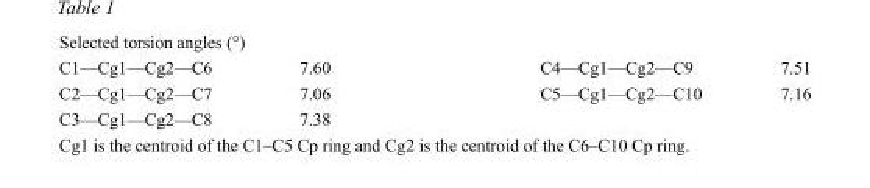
<table><tbody><tr><td>C1—Cg1—Cg2—C6</td><td>7.60</td><td>C4—Cg1—Cg2—C9</td><td>7.51</td></tr><tr><td>C2—Cg1—Cg2—C7</td><td>7.06</td><td>C5—Cg1—Cg2—C10</td><td>7.16</td></tr><tr><td>C3—Cg1—Cg2—C8</td><td>7.38</td><td></td><td></td></tr></tbody></table>